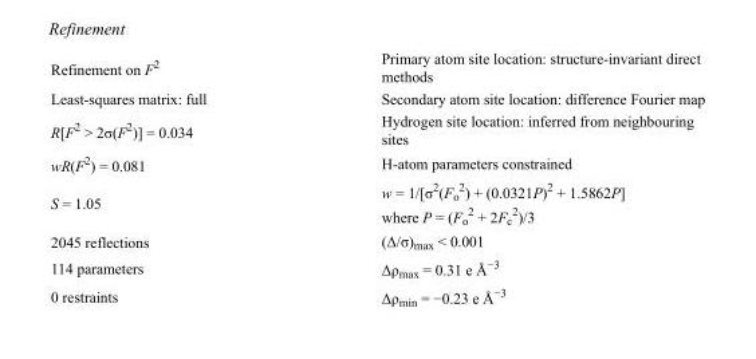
<table><tbody><tr><td>Refinement on F<sup>2</sup></td><td>Primary atom site location: structure-invariant direct methods</td></tr><tr><td>Least-squares matrix: full</td><td>Secondary atom site location: difference Fourier map</td></tr><tr><td>R[F<sup>2</sup> &gt; 2σ(F<sup>2</sup>)] = 0.034</td><td>Hydrogen site location: inferred from neighbouring sites</td></tr><tr><td>wR(F<sup>2</sup>) = 0.081</td><td>H-atom parameters constrained</td></tr><tr><td>S = 1.05</td><td>w = 1/[σ<sup>2</sup>(F<sub>o</sub> <sup>2</sup>) + (0.0321P)<sup>2</sup> + 1.5862P] where P = (F<sub>o</sub> <sup>2</sup> + 2F<sub>c</sub> <sup>2</sup>)/3</td></tr><tr><td>2045 reflections</td><td>(Δ/σ)<sub>max</sub> &lt; 0.001</td></tr><tr><td>114 parameters</td><td>Δρ<sub>max</sub> = 0.31 e Å<sup>−3</sup></td></tr><tr><td>0 restraints</td><td>Δρ<sub>min</sub> = −0.23 e Å<sup>−3</sup></td></tr></tbody></table>